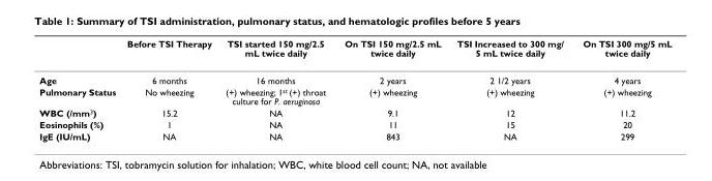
<table><thead><tr><td></td><td>Before TSI Therapy</td><td>TSI started 150 mg/2.5 mL twice daily</td><td>On TSI 150 mg/2.5 mL twice daily</td><td>TSI Increased to 300 mg/ 5 mL twice daily</td><td>On TSI 300 mg/5 mL twice daily</td></tr></thead><tbody><tr><td>Age</td><td>6 months</td><td>16 months</td><td>2 years</td><td>2 1/2 years</td><td>4 years</td></tr><tr><td>Pulmonary Status</td><td>No wheezing</td><td>(+) wheezing; 1st (+) throat culture for P. aeruginosa</td><td>(+) wheezing</td><td>(+) wheezing</td><td>(+) wheezing</td></tr><tr><td>WBC (/mm3)</td><td>15.2</td><td>NA</td><td>9.1</td><td>12</td><td>11.2</td></tr><tr><td>Eosinophils (%)</td><td>1</td><td>NA</td><td>11</td><td>15</td><td>20</td></tr><tr><td>IgE (IU/mL)</td><td>NA</td><td>NA</td><td>843</td><td>NA</td><td>299</td></tr></tbody></table>